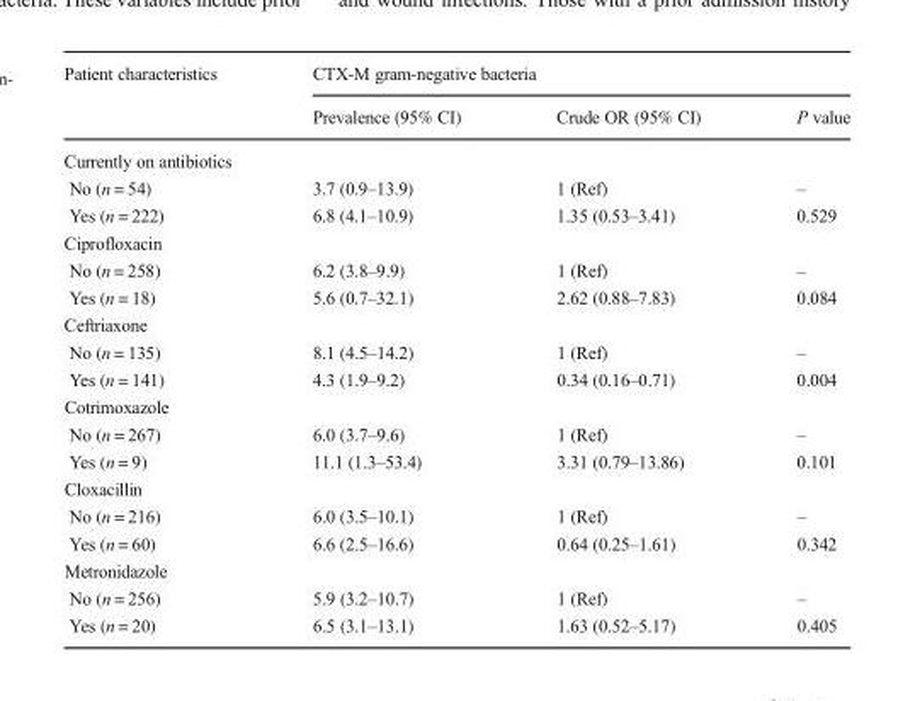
<table><thead><tr><td rowspan="2">Patient characteristics</td><td colspan="3">CTX-M gram-negative bacteria</td></tr><tr><td>Prevalence (95% CI)</td><td>Crude OR (95% CI)</td><td>P value</td></tr></thead><tbody><tr><td colspan="4">Currently on antibiotics</td></tr><tr><td>No (n = 54)</td><td>3.7 (0.9–13.9)</td><td>1 (Ref)</td><td>–</td></tr><tr><td>Yes (n = 222)</td><td>6.8 (4.1–10.9)</td><td>1.35 (0.53–3.41)</td><td>0.529</td></tr><tr><td colspan="4">Ciprofloxacin</td></tr><tr><td>No (n = 258)</td><td>6.2 (3.8–9.9)</td><td>1 (Ref)</td><td>–</td></tr><tr><td>Yes (n = 18)</td><td>5.6 (0.7–32.1)</td><td>2.62 (0.88–7.83)</td><td>0.084</td></tr><tr><td colspan="4">Ceftriaxone</td></tr><tr><td>No (n = 135)</td><td>8.1 (4.5–14.2)</td><td>1 (Ref)</td><td>–</td></tr><tr><td>Yes (n = 141)</td><td>4.3 (1.9–9.2)</td><td>0.34 (0.16–0.71)</td><td>0.004</td></tr><tr><td colspan="4">Cotrimoxazole</td></tr><tr><td>No (n = 267)</td><td>6.0 (3.7–9.6)</td><td>1 (Ref)</td><td>–</td></tr><tr><td>Yes (n = 9)</td><td>11.1 (1.3–53.4)</td><td>3.31 (0.79–13.86)</td><td>0.101</td></tr><tr><td colspan="4">Cloxacillin</td></tr><tr><td>No (n = 216)</td><td>6.0 (3.5–10.1)</td><td>1 (Ref)</td><td>–</td></tr><tr><td>Yes (n = 60)</td><td>6.6 (2.5–16.6)</td><td>0.64 (0.25–1.61)</td><td>0.342</td></tr><tr><td colspan="4">Metronidazole</td></tr><tr><td>No (n = 256)</td><td>5.9 (3.2–10.7)</td><td>1 (Ref)</td><td>–</td></tr><tr><td>Yes (n = 20)</td><td>6.5 (3.1–13.1)</td><td>1.63 (0.52–5.17)</td><td>0.405</td></tr></tbody></table>